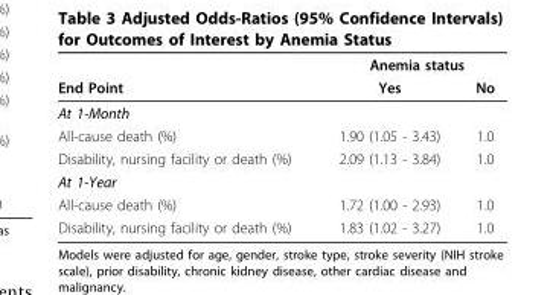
<table><thead><tr><td rowspan="2">End Point</td><td colspan="2">Anemia status</td></tr><tr><td>Yes</td><td>No</td></tr></thead><tbody><tr><td colspan="3">At 1-Month</td></tr><tr><td>All-cause death (%)</td><td>1.90 (1.05 - 3.43)</td><td>1.0</td></tr><tr><td>Disability, nursing facility or death (%)</td><td>2.09 (1.13 - 3.84)</td><td>1.0</td></tr><tr><td colspan="3">At 1-Year</td></tr><tr><td>All-cause death (%)</td><td>1.72 (1.00 - 2.93)</td><td>1.0</td></tr><tr><td>Disability, nursing facility or death (%)</td><td>1.83 (1.02 - 3.27)</td><td>1.0</td></tr></tbody></table>